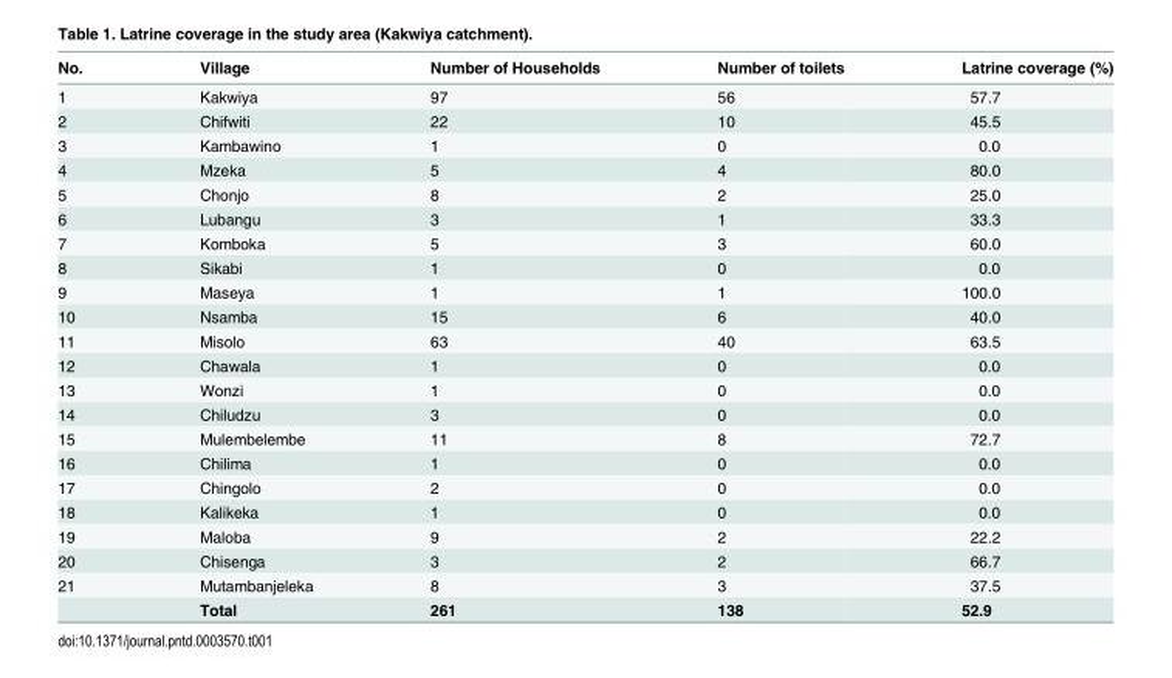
<table><thead><tr><td>No.</td><td>Village</td><td>Number of Households</td><td>Number of toilets</td><td>Latrine coverage (%)</td></tr></thead><tbody><tr><td>1</td><td>Kakwiya</td><td>97</td><td>56</td><td>57.7</td></tr><tr><td>2</td><td>Chifwiti</td><td>22</td><td>10</td><td>45.5</td></tr><tr><td>3</td><td>Kambawino</td><td>1</td><td>0</td><td>0.0</td></tr><tr><td>4</td><td>Mzeka</td><td>5</td><td>4</td><td>80.0</td></tr><tr><td>5</td><td>Chonjo</td><td>8</td><td>2</td><td>25.0</td></tr><tr><td>6</td><td>Lubangu</td><td>3</td><td>1</td><td>33.3</td></tr><tr><td>7</td><td>Komboka</td><td>5</td><td>3</td><td>60.0</td></tr><tr><td>8</td><td>Sikabi</td><td>1</td><td>0</td><td>0.0</td></tr><tr><td>9</td><td>Maseya</td><td>1</td><td>1</td><td>100.0</td></tr><tr><td>10</td><td>Nsamba</td><td>15</td><td>6</td><td>40.0</td></tr><tr><td>11</td><td>Misolo</td><td>63</td><td>40</td><td>63.5</td></tr><tr><td>12</td><td>Chawala</td><td>1</td><td>0</td><td>0.0</td></tr><tr><td>13</td><td>Wonzi</td><td>1</td><td>0</td><td>0.0</td></tr><tr><td>14</td><td>Chiludzu</td><td>3</td><td>0</td><td>0.0</td></tr><tr><td>15</td><td>Mulembelembe</td><td>11</td><td>8</td><td>72.7</td></tr><tr><td>16</td><td>Chilima</td><td>1</td><td>0</td><td>0.0</td></tr><tr><td>17</td><td>Chingolo</td><td>2</td><td>0</td><td>0.0</td></tr><tr><td>18</td><td>Kalikeka</td><td>1</td><td>0</td><td>0.0</td></tr><tr><td>19</td><td>Maloba</td><td>9</td><td>2</td><td>22.2</td></tr><tr><td>20</td><td>Chisenga</td><td>3</td><td>2</td><td>66.7</td></tr><tr><td rowspan="2">21</td><td>Mutambanjeleka</td><td>8</td><td>3</td><td>37.5</td></tr><tr><td>Total</td><td>261</td><td>138</td><td>52.9</td></tr></tbody></table>